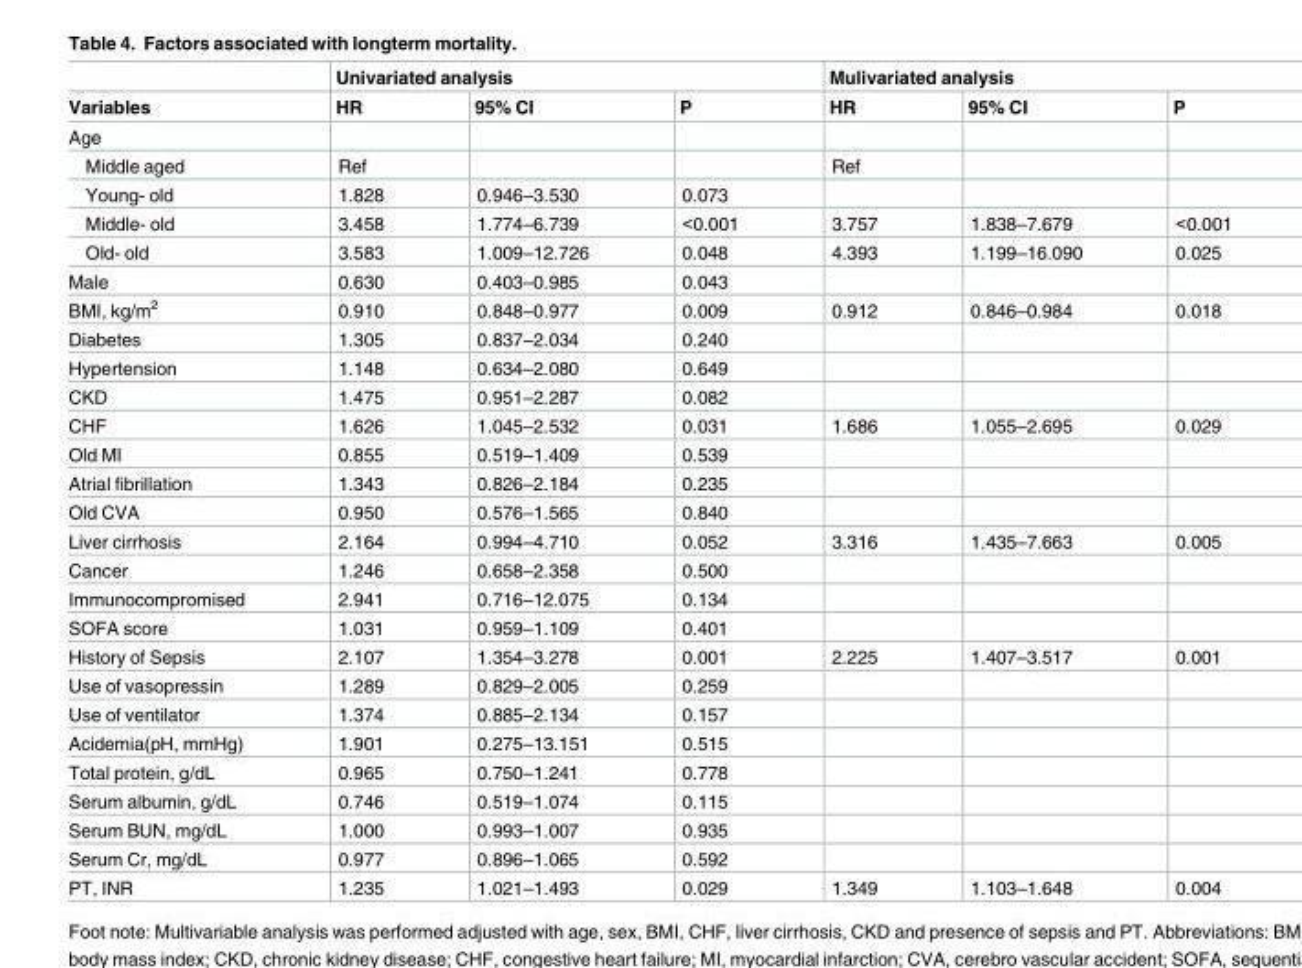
<table><thead><tr><td rowspan="2">Variables</td><td colspan="3">Univariated analysis</td><td colspan="3">Mulivariated analysis</td></tr><tr><td>HR</td><td>95% CI</td><td>P</td><td>HR</td><td>95% CI</td><td>P</td></tr></thead><tbody><tr><td colspan="7">Age</td></tr><tr><td>Middle aged</td><td>Ref</td><td></td><td></td><td>Ref</td><td></td><td></td></tr><tr><td>Young- old</td><td>1.828</td><td>0.946–3.530</td><td>0.073</td><td></td><td></td><td></td></tr><tr><td>Middle- old</td><td>3.458</td><td>1.774–6.739</td><td>&lt;0.001</td><td>3.757</td><td>1.838–7.679</td><td>&lt;0.001</td></tr><tr><td>Old- old</td><td>3.583</td><td>1.009–12.726</td><td>0.048</td><td>4.393</td><td>1.199–16.090</td><td>0.025</td></tr><tr><td>Male</td><td>0.630</td><td>0.403–0.985</td><td>0.043</td><td></td><td></td><td></td></tr><tr><td>BMI, kg/m<sup>2</sup></td><td>0.910</td><td>0.848–0.977</td><td>0.009</td><td>0.912</td><td>0.846–0.984</td><td>0.018</td></tr><tr><td>Diabetes</td><td>1.305</td><td>0.837–2.034</td><td>0.240</td><td></td><td></td><td></td></tr><tr><td>Hypertension</td><td>1.148</td><td>0.634–2.080</td><td>0.649</td><td></td><td></td><td></td></tr><tr><td>CKD</td><td>1.475</td><td>0.951–2.287</td><td>0.082</td><td></td><td></td><td></td></tr><tr><td>CHF</td><td>1.626</td><td>1.045–2.532</td><td>0.031</td><td>1.686</td><td>1.055–2.695</td><td>0.029</td></tr><tr><td>Old MI</td><td>0.855</td><td>0.519–1.409</td><td>0.539</td><td></td><td></td><td></td></tr><tr><td>Atrial fibrillation</td><td>1.343</td><td>0.826–2.184</td><td>0.235</td><td></td><td></td><td></td></tr><tr><td>Old CVA</td><td>0.950</td><td>0.576–1.565</td><td>0.840</td><td></td><td></td><td></td></tr><tr><td>Liver cirrhosis</td><td>2.164</td><td>0.994–4.710</td><td>0.052</td><td>3.316</td><td>1.435–7.663</td><td>0.005</td></tr><tr><td>Cancer</td><td>1.246</td><td>0.658–2.358</td><td>0.500</td><td></td><td></td><td></td></tr><tr><td>Immunocompromised</td><td>2.941</td><td>0.716–12.075</td><td>0.134</td><td></td><td></td><td></td></tr><tr><td>SOFA score</td><td>1.031</td><td>0.959–1.109</td><td>0.401</td><td></td><td></td><td></td></tr><tr><td>History of Sepsis</td><td>2.107</td><td>1.354–3.278</td><td>0.001</td><td>2.225</td><td>1.407–3.517</td><td>0.001</td></tr><tr><td>Use of vasopressin</td><td>1.289</td><td>0.829–2.005</td><td>0.259</td><td></td><td></td><td></td></tr><tr><td>Use of ventilator</td><td>1.374</td><td>0.885–2.134</td><td>0.157</td><td></td><td></td><td></td></tr><tr><td>Acidemia(pH, mmHg)</td><td>1.901</td><td>0.275–13.151</td><td>0.515</td><td></td><td></td><td></td></tr><tr><td>Total protein, g/dL</td><td>0.965</td><td>0.750–1.241</td><td>0.778</td><td></td><td></td><td></td></tr><tr><td>Serum albumin, g/dL</td><td>0.746</td><td>0.519–1.074</td><td>0.115</td><td></td><td></td><td></td></tr><tr><td>Serum BUN, mg/dL</td><td>1.000</td><td>0.993–1.007</td><td>0.935</td><td></td><td></td><td></td></tr><tr><td>Serum Cr, mg/dL</td><td>0.977</td><td>0.896–1.065</td><td>0.592</td><td></td><td></td><td></td></tr><tr><td>PT, INR</td><td>1.235</td><td>1.021–1.493</td><td>0.029</td><td>1.349</td><td>1.103–1.648</td><td>0.004</td></tr></tbody></table>